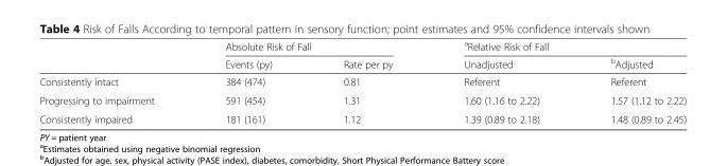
<table><thead><tr><td rowspan="2"></td><td colspan="2">Absolute Risk of Fall</td><td colspan="2"><sup>a</sup>Relative Risk of Fall</td></tr><tr><td>Events (py)</td><td>Rate per py</td><td>Unadjusted</td><td><sup>b</sup>Adjusted</td></tr></thead><tbody><tr><td>Consistently intact</td><td>384 (474)</td><td>0.81</td><td>Referent</td><td>Referent</td></tr><tr><td>Progressing to impairment</td><td>591 (454)</td><td>1.31</td><td>1.60 (1.16 to 2.22)</td><td>1.57 (1.12 to 2.22)</td></tr><tr><td>Consistently impaired</td><td>181 (161)</td><td>1.12</td><td>1.39 (0.89 to 2.18)</td><td>1.48 (0.89 to 2.45)</td></tr></tbody></table>